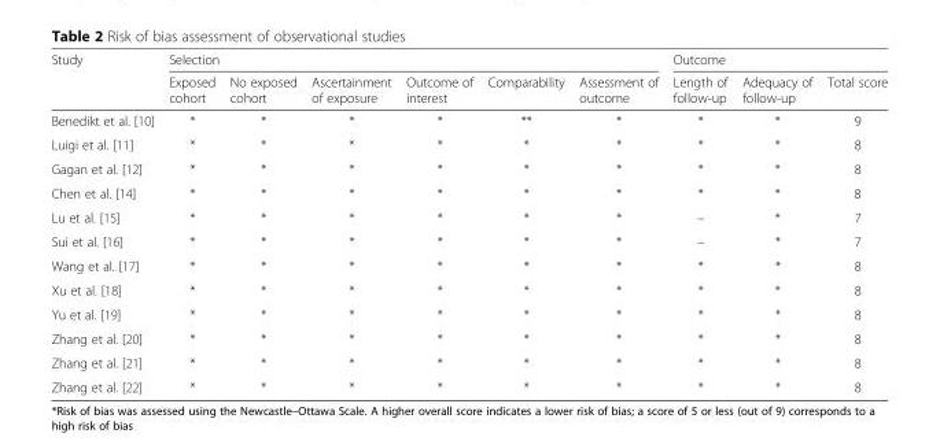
<table><thead><tr><td rowspan="2">Study</td><td colspan="6">Selection</td><td colspan="3">Outcome</td></tr><tr><td>Exposed cohort</td><td>No exposed cohort</td><td>Ascertainment of exposure</td><td>Outcome of interest</td><td>Comparability</td><td>Assessment of outcome</td><td>Length of follow-up</td><td>Adequacy of follow-up</td><td>Total score</td></tr></thead><tbody><tr><td>Benedikt et al. [10]</td><td>*</td><td>*</td><td>*</td><td>*</td><td>**</td><td>*</td><td>*</td><td>*</td><td>9</td></tr><tr><td>Luigi et al. [11]</td><td>*</td><td>*</td><td>*</td><td>*</td><td>*</td><td>*</td><td>*</td><td>*</td><td>8</td></tr><tr><td>Gagan et al. [12]</td><td>*</td><td>*</td><td>*</td><td>*</td><td>*</td><td>*</td><td>*</td><td>*</td><td>8</td></tr><tr><td>Chen et al. [14]</td><td>*</td><td>*</td><td>*</td><td>*</td><td>*</td><td>*</td><td>*</td><td>*</td><td>8</td></tr><tr><td>Lu et al. [15]</td><td>*</td><td>*</td><td>*</td><td>*</td><td>*</td><td>*</td><td>–</td><td>*</td><td>7</td></tr><tr><td>Sui et al. [16]</td><td>*</td><td>*</td><td>*</td><td>*</td><td>*</td><td>*</td><td>–</td><td>*</td><td>7</td></tr><tr><td>Wang et al. [17]</td><td>*</td><td>*</td><td>*</td><td>*</td><td>*</td><td>*</td><td>*</td><td>*</td><td>8</td></tr><tr><td>Xu et al. [18]</td><td>*</td><td>*</td><td>*</td><td>*</td><td>*</td><td>*</td><td>*</td><td>*</td><td>8</td></tr><tr><td>Yu et al. [19]</td><td>*</td><td>*</td><td>*</td><td>*</td><td>*</td><td>*</td><td>*</td><td>*</td><td>8</td></tr><tr><td>Zhang et al. [20]</td><td>*</td><td>*</td><td>*</td><td>*</td><td>*</td><td>*</td><td>*</td><td>*</td><td>8</td></tr><tr><td>Zhang et al. [21]</td><td>*</td><td>*</td><td>*</td><td>*</td><td>*</td><td>*</td><td>*</td><td>*</td><td>8</td></tr><tr><td>Zhang et al. [22]</td><td>*</td><td>*</td><td>*</td><td>*</td><td>*</td><td>*</td><td>*</td><td>*</td><td>8</td></tr></tbody></table>